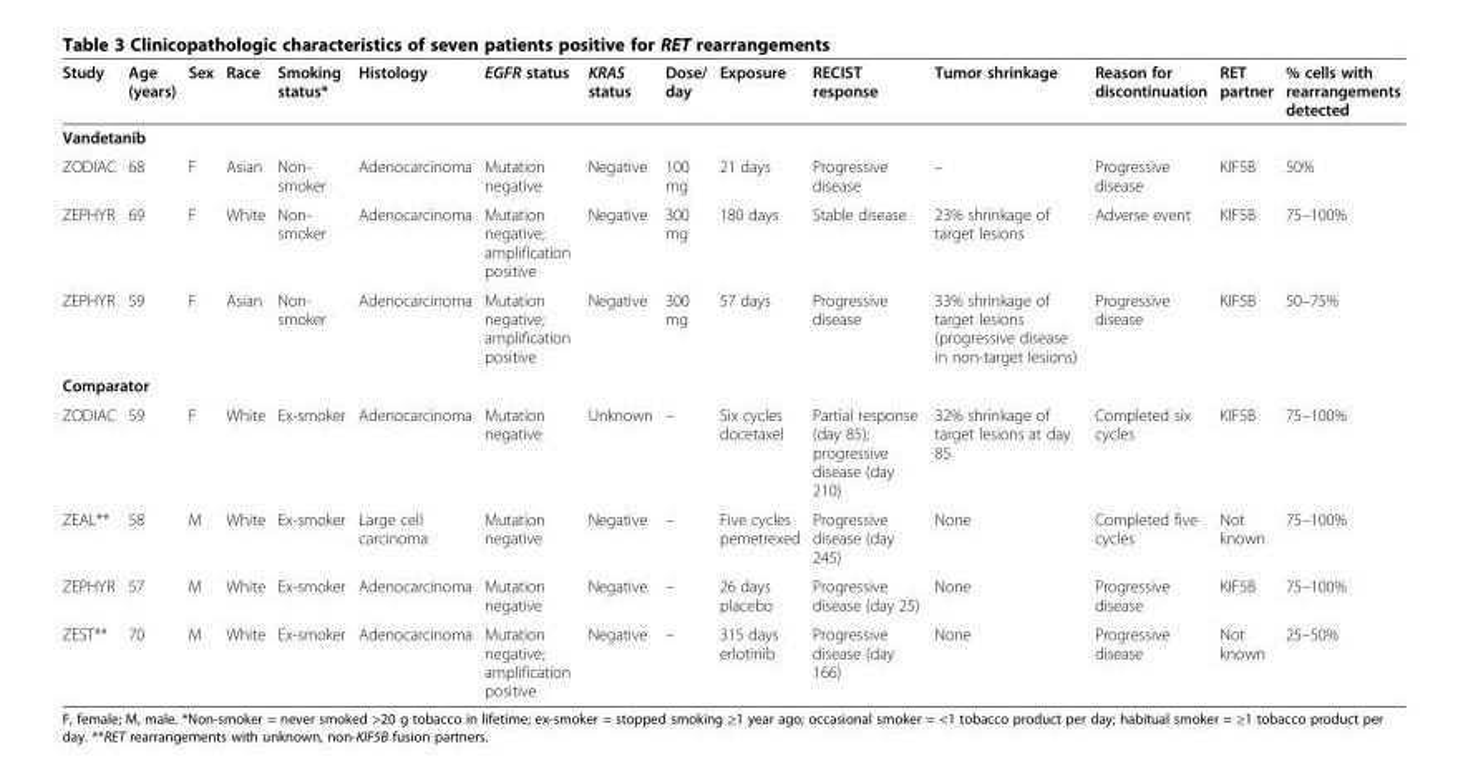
<table><thead><tr><td>Study</td><td>Age (years)</td><td>Sex</td><td>Race</td><td>Smoking status*</td><td>Histology</td><td>EGFR status</td><td>KRAS status</td><td>Dose/ day</td><td>Exposure</td><td>RECIST response</td><td>Tumor shrinkage</td><td>Reason for discontinuation</td><td>RET partner</td><td>% cells with rearrangements detected</td></tr></thead><tbody><tr><td colspan="15">Vandetanib</td></tr><tr><td>ZODIAC</td><td>68</td><td>F</td><td>Asian</td><td>Non- smoker</td><td>Adenocarcinoma</td><td>Mutation negative</td><td>Negative</td><td>100 mg</td><td>21 days</td><td>Progressive disease</td><td>–</td><td>Progressive disease</td><td>KIF5B</td><td>50%</td></tr><tr><td>ZEPHYR</td><td>69</td><td>F</td><td>White</td><td>Non- smoker</td><td>Adenocarcinoma</td><td>Mutation negative; amplification positive</td><td>Negative</td><td>300 mg</td><td>180 days</td><td>Stable disease</td><td>23% shrinkage of target lesions</td><td>Adverse event</td><td>KIF5B</td><td>75–100%</td></tr><tr><td>ZEPHYR</td><td>59</td><td>F</td><td>Asian</td><td>Non- smoker</td><td>Adenocarcinoma</td><td>Mutation negative; amplification positive</td><td>Negative</td><td>300 mg</td><td>57 days</td><td>Progressive disease</td><td>33% shrinkage of target lesions (progressive disease in non-target lesions)</td><td>Progressive disease</td><td>KIF5B</td><td>50–75%</td></tr><tr><td colspan="15">Comparator</td></tr><tr><td>ZODIAC</td><td>59</td><td>F</td><td>White</td><td>Ex-smoker</td><td>Adenocarcinoma</td><td>Mutation negative</td><td>Unknown</td><td>–</td><td>Six cycles docetaxel</td><td>Partial response (day 85); progressive disease (day 210)</td><td>32% shrinkage of target lesions at day 85</td><td>Completed six cycles</td><td>KIF5B</td><td>75–100%</td></tr><tr><td>ZEAL**</td><td>58</td><td>M</td><td>White</td><td>Ex-smoker</td><td>Large cell carcinoma</td><td>Mutation negative</td><td>Negative</td><td>–</td><td>Five cycles pemetrexed</td><td>Progressive disease (day 245)</td><td>None</td><td>Completed five cycles</td><td>Not known</td><td>75–100%</td></tr><tr><td>ZEPHYR</td><td>57</td><td>M</td><td>White</td><td>Ex-smoker</td><td>Adenocarcinoma</td><td>Mutation negative</td><td>Negative</td><td>–</td><td>26 days placebo</td><td>Progressive disease (day 25)</td><td>None</td><td>Progressive disease</td><td>KIF5B</td><td>75–100%</td></tr><tr><td>ZEST**</td><td>70</td><td>M</td><td>White</td><td>Ex-smoker</td><td>Adenocarcinoma</td><td>Mutation negative; amplification positive</td><td>Negative</td><td>–</td><td>315 days erlotinib</td><td>Progressive disease (day 166)</td><td>None</td><td>Progressive disease</td><td>Not known</td><td>25–50%</td></tr></tbody></table>